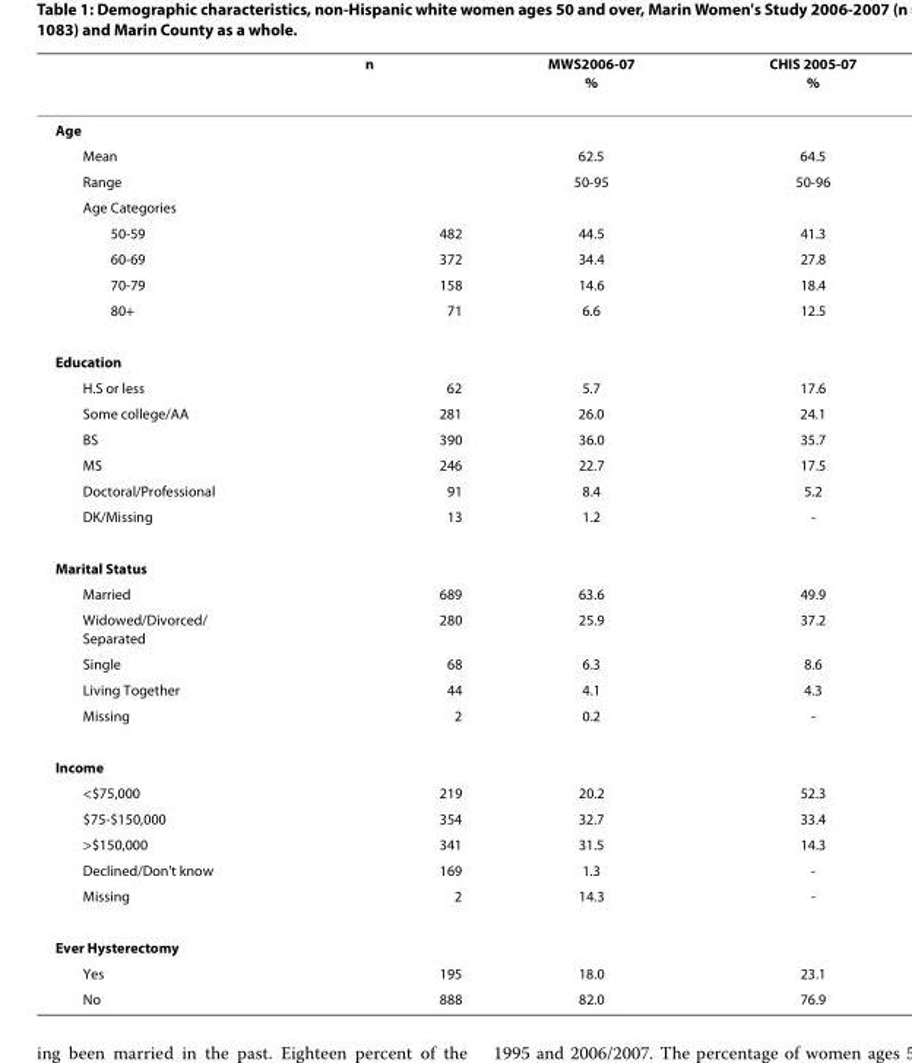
<table><thead><tr><td></td><td>n</td><td>MWS2006-07 %</td><td>CHIS 2005-07 %</td></tr></thead><tbody><tr><td colspan="4">Age</td></tr><tr><td>Mean</td><td></td><td>62.5</td><td>64.5</td></tr><tr><td>Range</td><td></td><td>50-95</td><td>50-96</td></tr><tr><td colspan="4">Age Categories</td></tr><tr><td>50-59</td><td>482</td><td>44.5</td><td>41.3</td></tr><tr><td>60-69</td><td>372</td><td>34.4</td><td>27.8</td></tr><tr><td>70-79</td><td>158</td><td>14.6</td><td>18.4</td></tr><tr><td>80+</td><td>71</td><td>6.6</td><td>12.5</td></tr><tr><td colspan="4">Education</td></tr><tr><td>H.S or less</td><td>62</td><td>5.7</td><td>17.6</td></tr><tr><td>Some college/AA</td><td>281</td><td>26.0</td><td>24.1</td></tr><tr><td>BS</td><td>390</td><td>36.0</td><td>35.7</td></tr><tr><td>MS</td><td>246</td><td>22.7</td><td>17.5</td></tr><tr><td>Doctoral/Professional</td><td>91</td><td>8.4</td><td>5.2</td></tr><tr><td>DK/Missing</td><td>13</td><td>1.2</td><td>-</td></tr><tr><td colspan="4">Marital Status</td></tr><tr><td>Married</td><td>689</td><td>63.6</td><td>49.9</td></tr><tr><td>Widowed/Divorced/ Separated</td><td>280</td><td>25.9</td><td>37.2</td></tr><tr><td>Single</td><td>68</td><td>6.3</td><td>8.6</td></tr><tr><td>Living Together</td><td>44</td><td>4.1</td><td>4.3</td></tr><tr><td>Missing</td><td>2</td><td>0.2</td><td>-</td></tr><tr><td colspan="4">Income</td></tr><tr><td>&lt;$75,000</td><td>219</td><td>20.2</td><td>52.3</td></tr><tr><td>$75-$150,000</td><td>354</td><td>32.7</td><td>33.4</td></tr><tr><td>&gt;$150,000</td><td>341</td><td>31.5</td><td>14.3</td></tr><tr><td>Declined/Don&#x27;t know</td><td>169</td><td>1.3</td><td>-</td></tr><tr><td>Missing</td><td>2</td><td>14.3</td><td>-</td></tr><tr><td colspan="4">Ever Hysterectomy</td></tr><tr><td>Yes</td><td>195</td><td>18.0</td><td>23.1</td></tr><tr><td>No</td><td>888</td><td>82.0</td><td>76.9</td></tr></tbody></table>